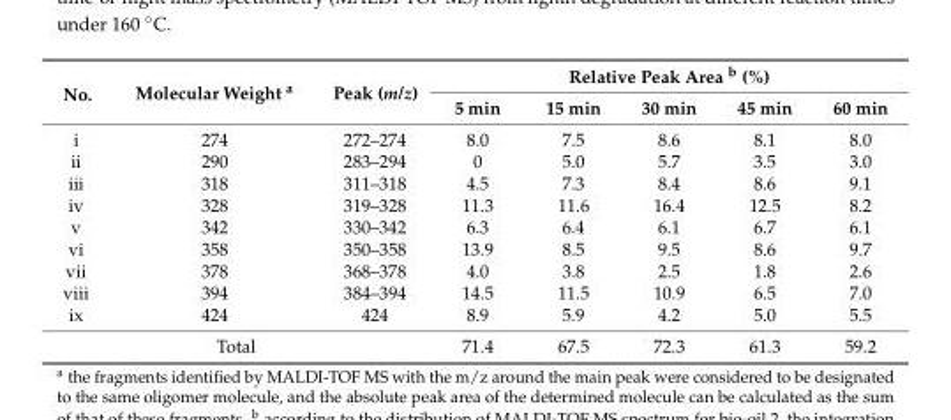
<table><thead><tr><td rowspan="2">No.</td><td rowspan="2">Molecular Weight a</td><td rowspan="2">Peak (m/z)</td><td colspan="5">Relative Peak Area b (%)</td></tr><tr><td>5 min</td><td>15 min</td><td>30 min</td><td>45 min</td><td>60 min</td></tr></thead><tbody><tr><td>i</td><td>274</td><td>272–274</td><td>8.0</td><td>7.5</td><td>8.6</td><td>8.1</td><td>8.0</td></tr><tr><td>ii</td><td>290</td><td>283–294</td><td>0</td><td>5.0</td><td>5.7</td><td>3.5</td><td>3.0</td></tr><tr><td>iii</td><td>318</td><td>311–318</td><td>4.5</td><td>7.3</td><td>8.4</td><td>8.6</td><td>9.1</td></tr><tr><td>iv</td><td>328</td><td>319–328</td><td>11.3</td><td>11.6</td><td>16.4</td><td>12.5</td><td>8.2</td></tr><tr><td>v</td><td>342</td><td>330–342</td><td>6.3</td><td>6.4</td><td>6.1</td><td>6.7</td><td>6.1</td></tr><tr><td>vi</td><td>358</td><td>350–358</td><td>13.9</td><td>8.5</td><td>9.5</td><td>8.6</td><td>9.7</td></tr><tr><td>vii</td><td>378</td><td>368–378</td><td>4.0</td><td>3.8</td><td>2.5</td><td>1.8</td><td>2.6</td></tr><tr><td>viii</td><td>394</td><td>384–394</td><td>14.5</td><td>11.5</td><td>10.9</td><td>6.5</td><td>7.0</td></tr><tr><td>ix</td><td>424</td><td>424</td><td>8.9</td><td>5.9</td><td>4.2</td><td>5.0</td><td>5.5</td></tr><tr><td colspan="3">Total</td><td>71.4</td><td>67.5</td><td>72.3</td><td>61.3</td><td>59.2</td></tr></tbody></table>